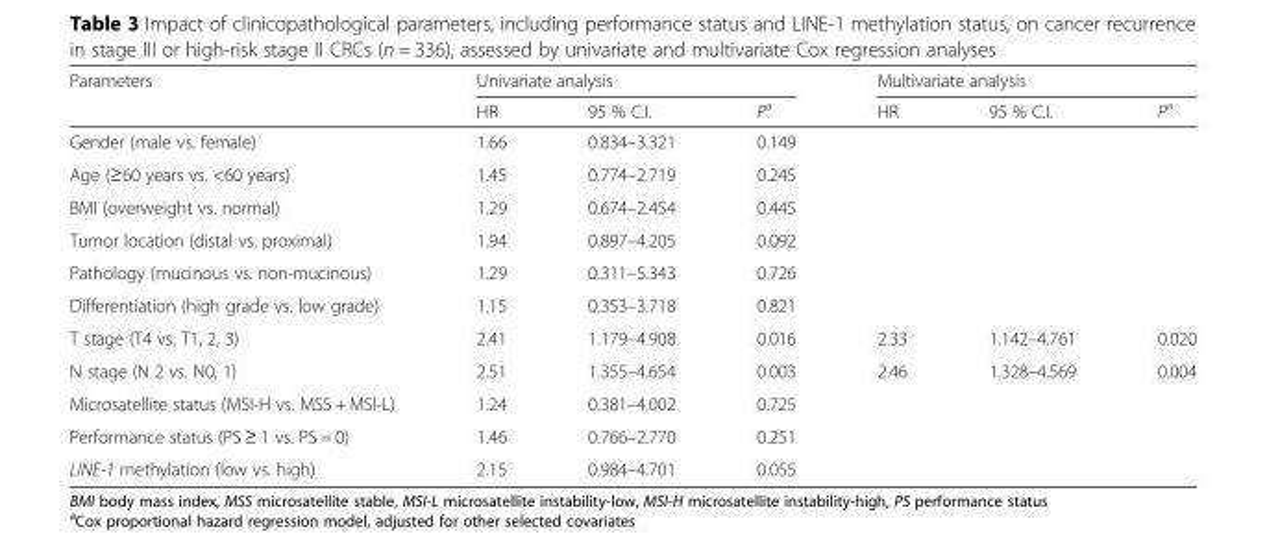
<table><thead><tr><td rowspan="2">Parameters</td><td colspan="3">Univariate analysis</td><td colspan="3">Multivariate analysis</td></tr><tr><td>HR</td><td>95 % C.I.</td><td>P<sup>a</sup></td><td>HR</td><td>95 % C.I.</td><td>P<sup>a</sup></td></tr></thead><tbody><tr><td>Gender (male vs. female)</td><td>1.66</td><td>0.834–3.321</td><td>0.149</td><td></td><td></td><td></td></tr><tr><td>Age (≥60 years vs. &lt;60 years)</td><td>1.45</td><td>0.774–2.719</td><td>0.245</td><td></td><td></td><td></td></tr><tr><td>BMI (overweight vs. normal)</td><td>1.29</td><td>0.674–2.454</td><td>0.445</td><td></td><td></td><td></td></tr><tr><td>Tumor location (distal vs. proximal)</td><td>1.94</td><td>0.897–4.205</td><td>0.092</td><td></td><td></td><td></td></tr><tr><td>Pathology (mucinous vs. non-mucinous)</td><td>1.29</td><td>0.311–5.343</td><td>0.726</td><td></td><td></td><td></td></tr><tr><td>Differentiation (high grade vs. low grade)</td><td>1.15</td><td>0.353–3.718</td><td>0.821</td><td></td><td></td><td></td></tr><tr><td>T stage (T4 vs. T1, 2, 3)</td><td>2.41</td><td>1.179–4.908</td><td>0.016</td><td>2.33</td><td>1.142–4.761</td><td>0.020</td></tr><tr><td>N stage (N 2 vs. N0, 1)</td><td>2.51</td><td>1.355–4.654</td><td>0.003</td><td>2.46</td><td>1.328–4.569</td><td>0.004</td></tr><tr><td>Microsatellite status (MSI-H vs. MSS + MSI-L)</td><td>1.24</td><td>0.381–4.002</td><td>0.725</td><td></td><td></td><td></td></tr><tr><td>Performance status (PS ≥ 1 vs. PS = 0)</td><td>1.46</td><td>0.766–2.770</td><td>0.251</td><td></td><td></td><td></td></tr><tr><td>LINE-1 methylation (low vs. high)</td><td>2.15</td><td>0.984–4.701</td><td>0.055</td><td></td><td></td><td></td></tr></tbody></table>